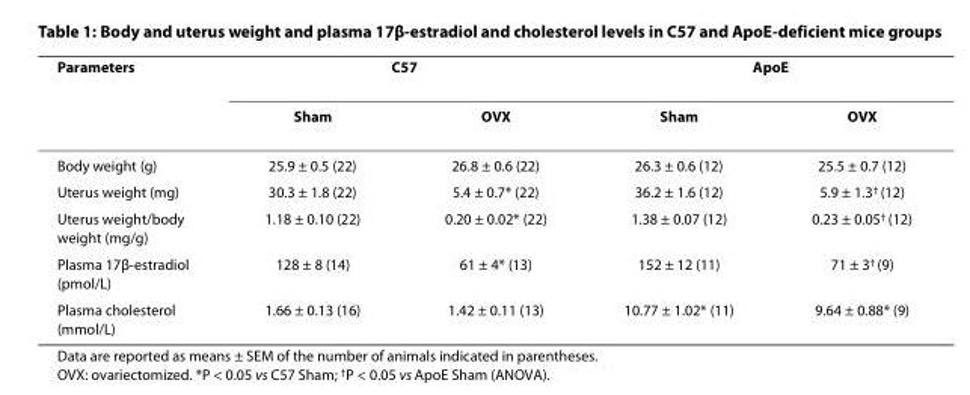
<table><thead><tr><td rowspan="2">Parameters</td><td colspan="2">C57</td><td colspan="2">ApoE</td></tr><tr><td>Sham</td><td>OVX</td><td>Sham</td><td>OVX</td></tr></thead><tbody><tr><td>Body weight (g)</td><td>25.9 ± 0.5 (22)</td><td>26.8 ± 0.6 (22)</td><td>26.3 ± 0.6 (12)</td><td>25.5 ± 0.7 (12)</td></tr><tr><td>Uterus weight (mg)</td><td>30.3 ± 1.8 (22)</td><td>5.4 ± 0.7* (22)</td><td>36.2 ± 1.6 (12)</td><td>5.9 ± 1.3<sup>†</sup> (12)</td></tr><tr><td>Uterus weight/body weight (mg/g)</td><td>1.18 ± 0.10 (22)</td><td>0.20 ± 0.02* (22)</td><td>1.38 ± 0.07 (12)</td><td>0.23 ± 0.05<sup>†</sup> (12)</td></tr><tr><td>Plasma 17β-estradiol (pmol/L)</td><td>128 ± 8 (14)</td><td>61 ± 4* (13)</td><td>152 ± 12 (11)</td><td>71 ± 3<sup>†</sup> (9)</td></tr><tr><td>Plasma cholesterol (mmol/L)</td><td>1.66 ± 0.13 (16)</td><td>1.42 ± 0.11 (13)</td><td>10.77 ± 1.02* (11)</td><td>9.64 ± 0.88* (9)</td></tr></tbody></table>